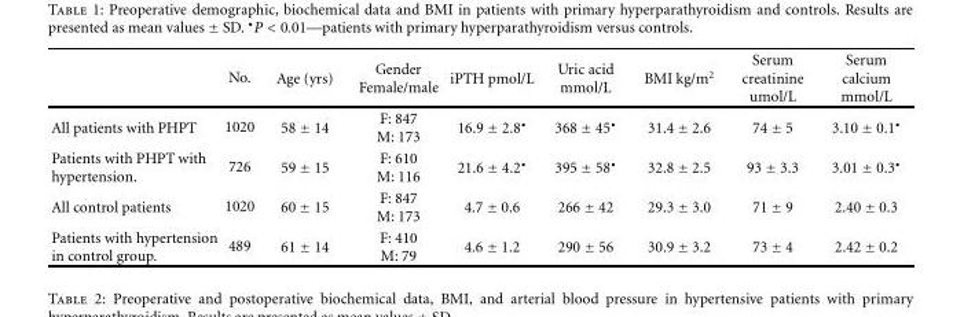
<table><thead><tr><td></td><td>No.</td><td>Age (yrs)</td><td>Gender Female/male</td><td>iPTH pmol/L</td><td>Uric acid mmol/L</td><td>BMI kg/m<sup>2</sup></td><td>Serum creatinine umol/L</td><td>Serum calcium mmol/L</td></tr></thead><tbody><tr><td>All patients with PHPT</td><td>1020</td><td>58 ± 14</td><td>F: 847 M: 173</td><td>16.9 ± 2.8•</td><td>368 ± 45•</td><td>31.4 ± 2.6</td><td>74 ± 5</td><td>3.10 ± 0.1•</td></tr><tr><td>Patients with PHPT with hypertension.</td><td>726</td><td>59 ± 15</td><td>F: 610 M: 116</td><td>21.6 ± 4.2•</td><td>395 ± 58•</td><td>32.8 ± 2.5</td><td>93 ± 3.3</td><td>3.01 ± 0.3•</td></tr><tr><td>All control patients</td><td>1020</td><td>60 ± 15</td><td>F: 847 M: 173</td><td>4.7 ± 0.6</td><td>266 ± 42</td><td>29.3 ± 3.0</td><td>71 ± 9</td><td>2.40 ± 0.3</td></tr><tr><td>Patients with hypertension in control group.</td><td>489</td><td>61 ± 14</td><td>F: 410 M: 79</td><td>4.6 ± 1.2</td><td>290 ± 56</td><td>30.9 ± 3.2</td><td>73 ± 4</td><td>2.42 ± 0.2</td></tr></tbody></table>